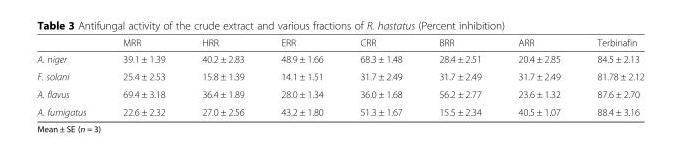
<table><thead><tr><td></td><td>MRR</td><td>HRR</td><td>ERR</td><td>CRR</td><td>BRR</td><td>ARR</td><td>Terbinafin</td></tr></thead><tbody><tr><td>A. niger</td><td>39.1 ± 1.39</td><td>40.2 ± 2.83</td><td>48.9 ± 1.66</td><td>68.3 ± 1.48</td><td>28.4 ± 2.51</td><td>20.4 ± 2.85</td><td>84.5 ± 2.13</td></tr><tr><td>F. solani</td><td>25.4 ± 2.53</td><td>15.8 ± 1.39</td><td>14.1 ± 1.51</td><td>31.7 ± 2.49</td><td>31.7 ± 2.49</td><td>31.7 ± 2.49</td><td>81.78 ± 2.12</td></tr><tr><td>A. flavus</td><td>69.4 ± 3.18</td><td>36.4 ± 1.89</td><td>28.0 ± 1.34</td><td>36.0 ± 1.68</td><td>56.2 ± 2.77</td><td>23.6 ± 1.32</td><td>87.6 ± 2.70</td></tr><tr><td>A. fumigatus</td><td>22.6 ± 2.32</td><td>27.0 ± 2.56</td><td>43.2 ± 1.80</td><td>51.3 ± 1.67</td><td>15.5 ± 2.34</td><td>40.5 ± 1.07</td><td>88.4 ± 3.16</td></tr></tbody></table>